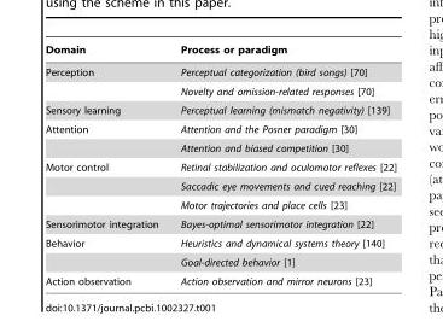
<table><thead><tr><td>Domain</td><td>Process or paradigm</td></tr></thead><tbody><tr><td rowspan="2">Perception</td><td>Perceptual categorization (bird songs) [70]</td></tr><tr><td>Novelty and omission-related responses [70]</td></tr><tr><td>Sensory learning</td><td>Perceptual learning (mismatch negativity) [139]</td></tr><tr><td rowspan="2">Attention</td><td>Attention and the Posner paradigm [30]</td></tr><tr><td>Attention and biased competition [30]</td></tr><tr><td rowspan="3">Motor control</td><td>Retinal stabilization and oculomotor reflexes [22]</td></tr><tr><td>Saccadic eye movements and cued reaching [22]</td></tr><tr><td>Motor trajectories and place cells [23]</td></tr><tr><td>Sensorimotor integration</td><td>Bayes-optimal sensorimotor integration [22]</td></tr><tr><td rowspan="2">Behavior</td><td>Heuristics and dynamical systems theory [140]</td></tr><tr><td>Goal-directed behavior [1]</td></tr><tr><td>Action observation</td><td>Action observation and mirror neurons [23]</td></tr></tbody></table>